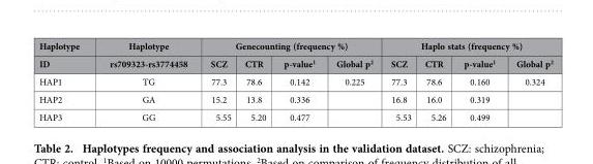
<table><thead><tr><td rowspan="2">Haplotype ID</td><td rowspan="2">Haplotype rs709323-rs3774458</td><td colspan="4">Genecounting (frequency %)</td><td colspan="4">Haplo stats (frequency %)</td></tr><tr><td>SCZ</td><td>CTR</td><td>p-value<sup>1</sup></td><td>Global p<sup>2</sup></td><td>SCZ</td><td>CTR</td><td>p-value<sup>1</sup></td><td>Global p<sup>2</sup></td></tr></thead><tbody><tr><td>HAP1</td><td>TG</td><td>77.3</td><td>78.6</td><td>0.142</td><td>0.225</td><td>77.3</td><td>78.6</td><td>0.160</td><td>0.324</td></tr><tr><td>HAP2</td><td>GA</td><td>15.2</td><td>13.8</td><td>0.336</td><td></td><td>16.8</td><td>16.0</td><td>0.319</td><td></td></tr><tr><td>HAP3</td><td>GG</td><td>5.55</td><td>5.20</td><td>0.477</td><td></td><td>5.53</td><td>5.26</td><td>0.499</td><td></td></tr></tbody></table>